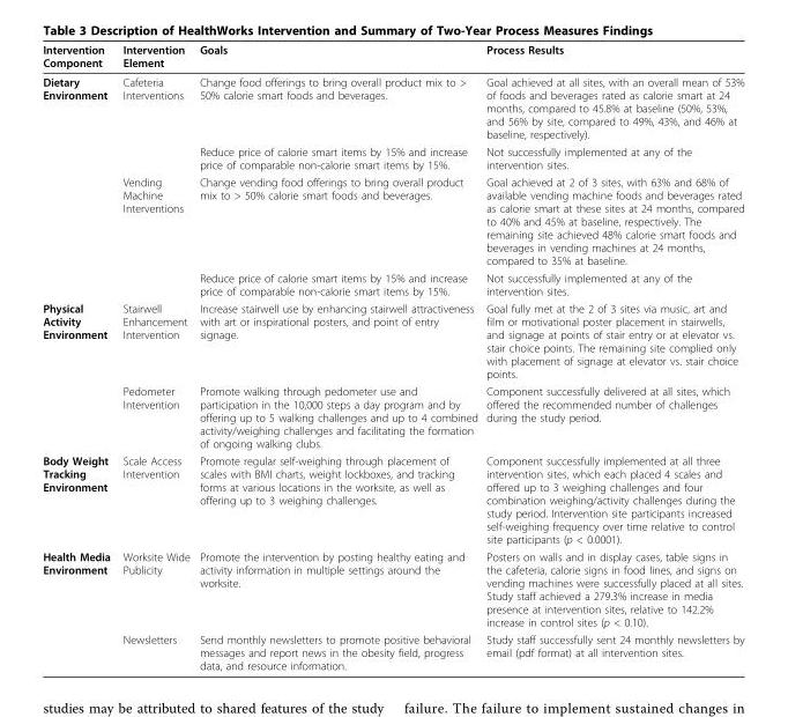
<table><thead><tr><td>Intervention Component</td><td>Intervention Element</td><td>Goals</td><td>Process Results</td></tr></thead><tbody><tr><td rowspan="4">Dietary Environment</td><td>Cafeteria Interventions</td><td>Change food offerings to bring overall product mix to &gt; 50% calorie smart foods and beverages.</td><td>Goal achieved at all sites, with an overall mean of 53% of foods and beverages rated as calorie smart at 24 months, compared to 45.8% at baseline (50%, 53%, and 56% by site, compared to 49%, 43%, and 46% at baseline, respectively).</td></tr><tr><td></td><td>Reduce price of calorie smart items by 15% and increase price of comparable non-calorie smart items by 15%.</td><td>Not successfully implemented at any of the intervention sites.</td></tr><tr><td>Vending Machine Interventions</td><td>Change vending food offerings to bring overall product mix to &gt; 50% calorie smart foods and beverages.</td><td>Goal achieved at 2 of 3 sites, with 63% and 68% of available vending machine foods and beverages rated as calorie smart at these sites at 24 months, compared to 40% and 45% at baseline, respectively. The remaining site achieved 48% calorie smart foods and beverages in vending machines at 24 months, compared to 35% at baseline.</td></tr><tr><td></td><td>Reduce price of calorie smart items by 15% and increase price of comparable non-calorie smart items by 15%.</td><td>Not successfully implemented at any of the intervention sites.</td></tr><tr><td rowspan="2">Physical Activity Environment</td><td>Stairwell Enhancement Intervention</td><td>Increase stairwell use by enhancing stairwell attractiveness with art or inspirational posters, and point of entry signage.</td><td>Goal fully met at the 2 of 3 sites via music, art and film or motivational poster placement in stairwells, and signage at points of stair entry or at elevator vs. stair choice points. The remaining site complied only with placement of signage at elevator vs. stair choice points.</td></tr><tr><td>Pedometer Intervention</td><td>Promote walking through pedometer use and participation in the 10,000 steps a day program and by offering up to 5 walking challenges and up to 4 combined activity/weighing challenges and facilitating the formation of ongoing walking clubs.</td><td>Component successfully delivered at all sites, which offered the recommended number of challenges during the study period.</td></tr><tr><td>Body Weight Tracking Environment</td><td>Scale Access Intervention</td><td>Promote regular self-weighing through placement of scales with BMI charts, weight lockboxes, and tracking forms at various locations in the worksite, as well as offering up to 3 weighing challenges.</td><td>Component successfully implemented at all three intervention sites, which each placed 4 scales and offered up to 3 weighing challenges and four combination weighing/activity challenges during the study period. Intervention site participants increased self-weighing frequency over time relative to control site participants (p &lt; 0.0001).</td></tr><tr><td rowspan="2">Health Media Environment</td><td>Worksite Wide Publicity</td><td>Promote the intervention by posting healthy eating and activity information in multiple settings around the worksite.</td><td>Posters on walls and in display cases, table signs in the cafeteria, calorie signs in food lines, and signs on vending machines were successfully placed at all sites. Study staff achieved a 279.3% increase in media presence at intervention sites, relative to 142.2% increase in control sites (p &lt; 0.10).</td></tr><tr><td>Newsletters</td><td>Send monthly newsletters to promote positive behavioral messages and report news in the obesity field, progress data, and resource information.</td><td>Study staff successfully sent 24 monthly newsletters by email (pdf format) at all intervention sites.</td></tr></tbody></table>